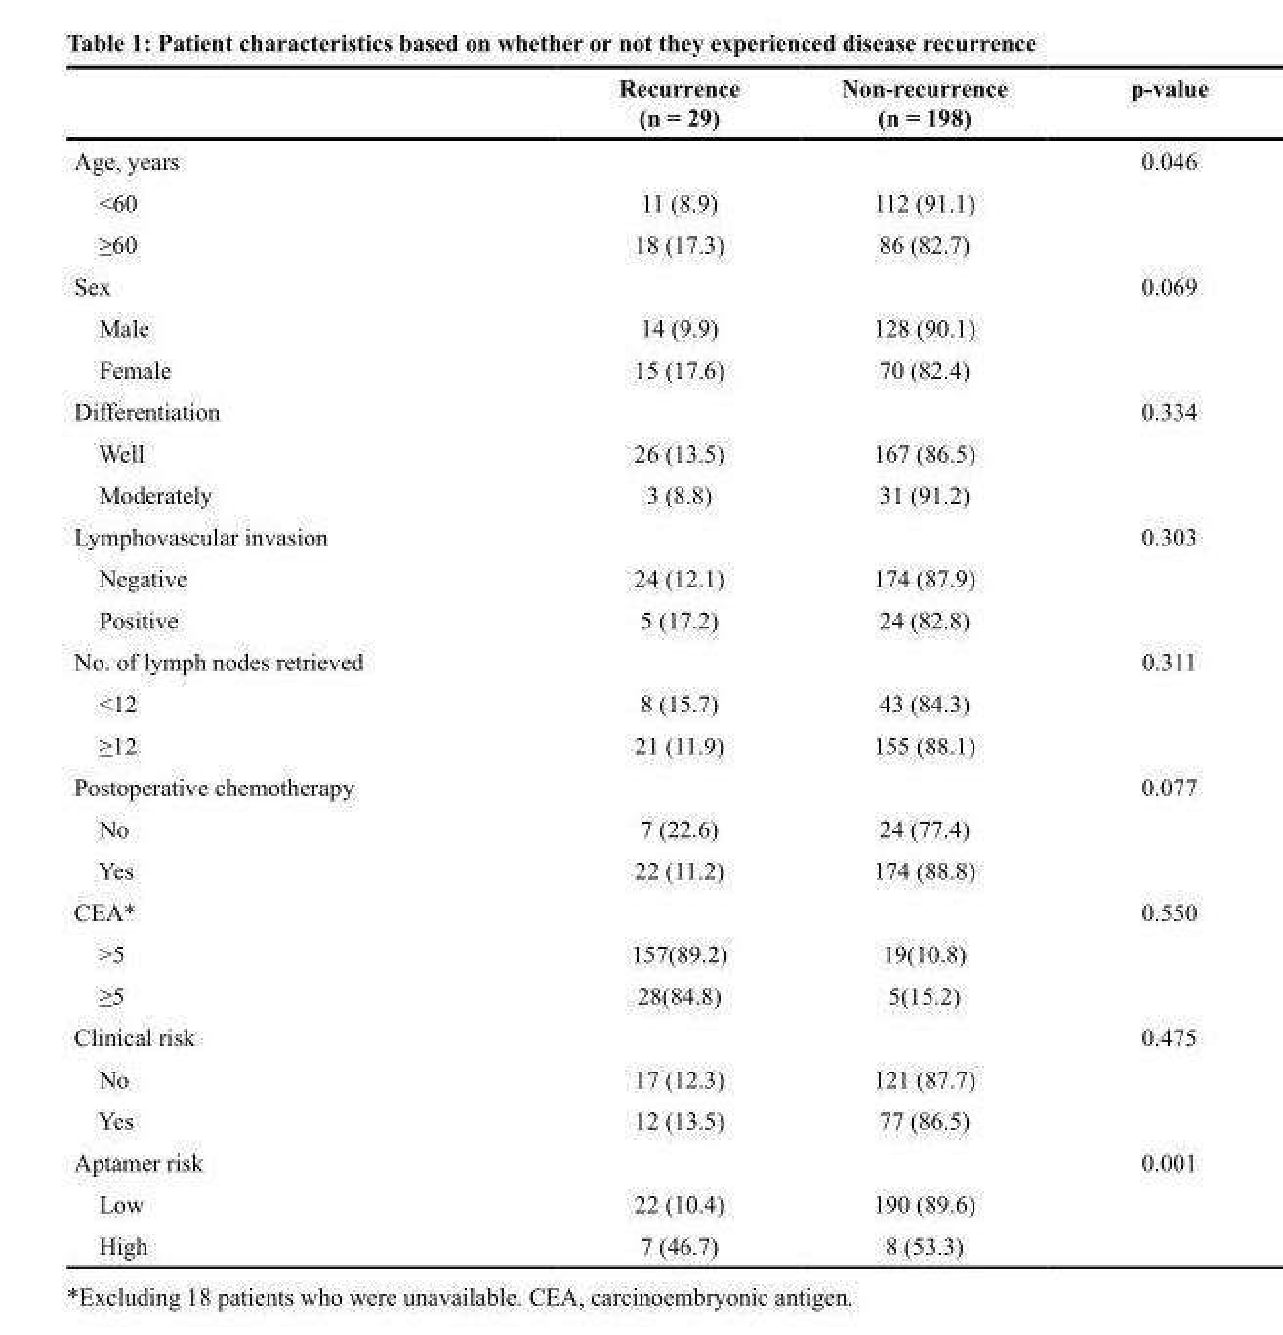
<table><thead><tr><td></td><td>Recurrence (n = 29)</td><td>Non-recurrence (n = 198)</td><td>p-value</td></tr></thead><tbody><tr><td>Age, years</td><td></td><td></td><td>0.046</td></tr><tr><td>&lt;60</td><td>11 (8.9)</td><td>112 (91.1)</td><td></td></tr><tr><td>≥60</td><td>18 (17.3)</td><td>86 (82.7)</td><td></td></tr><tr><td>Sex</td><td></td><td></td><td>0.069</td></tr><tr><td>Male</td><td>14 (9.9)</td><td>128 (90.1)</td><td></td></tr><tr><td>Female</td><td>15 (17.6)</td><td>70 (82.4)</td><td></td></tr><tr><td>Differentiation</td><td></td><td></td><td>0.334</td></tr><tr><td>Well</td><td>26 (13.5)</td><td>167 (86.5)</td><td></td></tr><tr><td>Moderately</td><td>3 (8.8)</td><td>31 (91.2)</td><td></td></tr><tr><td>Lymphovascular invasion</td><td></td><td></td><td>0.303</td></tr><tr><td>Negative</td><td>24 (12.1)</td><td>174 (87.9)</td><td></td></tr><tr><td>Positive</td><td>5 (17.2)</td><td>24 (82.8)</td><td></td></tr><tr><td>No. of lymph nodes retrieved</td><td></td><td></td><td>0.311</td></tr><tr><td>&lt;12</td><td>8 (15.7)</td><td>43 (84.3)</td><td></td></tr><tr><td>≥12</td><td>21 (11.9)</td><td>155 (88.1)</td><td></td></tr><tr><td>Postoperative chemotherapy</td><td></td><td></td><td>0.077</td></tr><tr><td>No</td><td>7 (22.6)</td><td>24 (77.4)</td><td></td></tr><tr><td>Yes</td><td>22 (11.2)</td><td>174 (88.8)</td><td></td></tr><tr><td>CEA*</td><td></td><td></td><td>0.550</td></tr><tr><td>&gt;5</td><td>157(89.2)</td><td>19(10.8)</td><td></td></tr><tr><td>≥5</td><td>28(84.8)</td><td>5(15.2)</td><td></td></tr><tr><td>Clinical risk</td><td></td><td></td><td>0.475</td></tr><tr><td>No</td><td>17 (12.3)</td><td>121 (87.7)</td><td></td></tr><tr><td>Yes</td><td>12 (13.5)</td><td>77 (86.5)</td><td></td></tr><tr><td>Aptamer risk</td><td></td><td></td><td>0.001</td></tr><tr><td>Low</td><td>22 (10.4)</td><td>190 (89.6)</td><td></td></tr><tr><td>High</td><td>7 (46.7)</td><td>8 (53.3)</td><td></td></tr></tbody></table>